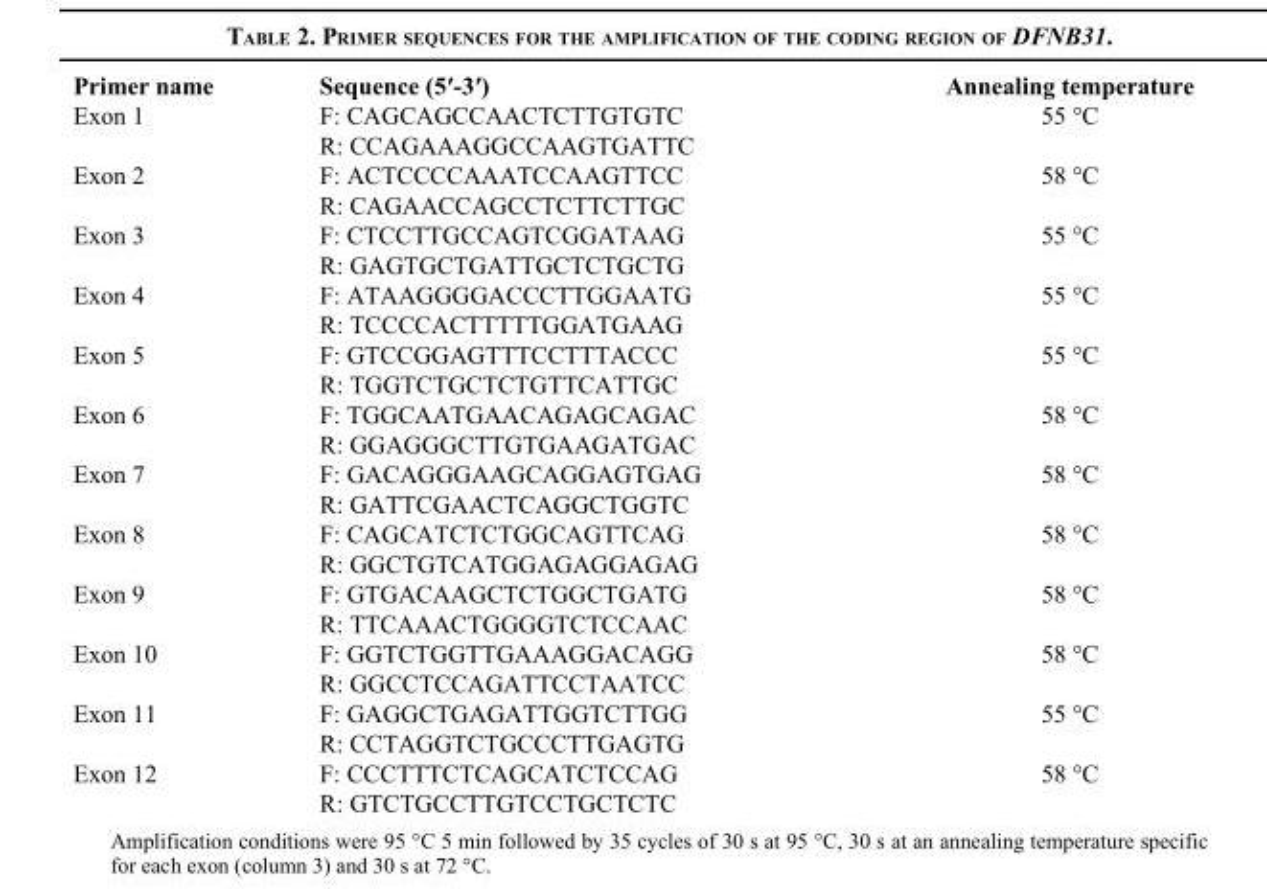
<table><thead><tr><td>Primer name</td><td>Sequence (5′-3′)</td><td>Annealing temperature</td></tr></thead><tbody><tr><td rowspan="2">Exon 1</td><td>F: CAGCAGCCAACTCTTGTGTC</td><td rowspan="2">55 °C</td></tr><tr><td>R: CCAGAAAGGCCAAGTGATTC</td></tr><tr><td rowspan="2">Exon 2</td><td>F: ACTCCCCAAATCCAAGTTCC</td><td rowspan="2">58 °C</td></tr><tr><td>R: CAGAACCAGCCTCTTCTTGC</td></tr><tr><td rowspan="2">Exon 3</td><td>F: CTCCTTGCCAGTCGGATAAG</td><td rowspan="2">55 °C</td></tr><tr><td>R: GAGTGCTGATTGCTCTGCTG</td></tr><tr><td rowspan="2">Exon 4</td><td>F: ATAAGGGGACCCTTGGAATG</td><td rowspan="2">55 °C</td></tr><tr><td>R: TCCCCACTTTTTGGATGAAG</td></tr><tr><td rowspan="2">Exon 5</td><td>F: GTCCGGAGTTTCCTTTACCC</td><td rowspan="2">55 °C</td></tr><tr><td>R: TGGTCTGCTCTGTTCATTGC</td></tr><tr><td rowspan="2">Exon 6</td><td>F: TGGCAATGAACAGAGCAGAC</td><td rowspan="2">58 °C</td></tr><tr><td>R: GGAGGGCTTGTGAAGATGAC</td></tr><tr><td rowspan="2">Exon 7</td><td>F: GACAGGGAAGCAGGAGTGAG</td><td rowspan="2">58 °C</td></tr><tr><td>R: GATTCGAACTCAGGCTGGTC</td></tr><tr><td rowspan="2">Exon 8</td><td>F: CAGCATCTCTGGCAGTTCAG</td><td rowspan="2">58 °C</td></tr><tr><td>R: GGCTGTCATGGAGAGGAGAG</td></tr><tr><td rowspan="2">Exon 9</td><td>F: GTGACAAGCTCTGGCTGATG</td><td rowspan="2">58 °C</td></tr><tr><td>R: TTCAAACTGGGGTCTCCAAC</td></tr><tr><td rowspan="2">Exon 10</td><td>F: GGTCTGGTTGAAAGGACAGG</td><td rowspan="2">58 °C</td></tr><tr><td>R: GGCCTCCAGATTCCTAATCC</td></tr><tr><td rowspan="2">Exon 11</td><td>F: GAGGCTGAGATTGGTCTTGG</td><td rowspan="2">55 °C</td></tr><tr><td>R: CCTAGGTCTGCCCTTGAGTG</td></tr><tr><td rowspan="2">Exon 12</td><td>F: CCCTTTCTCAGCATCTCCAG</td><td rowspan="2">58 °C</td></tr><tr><td>R: GTCTGCCTTGTCCTGCTCTC</td></tr></tbody></table>